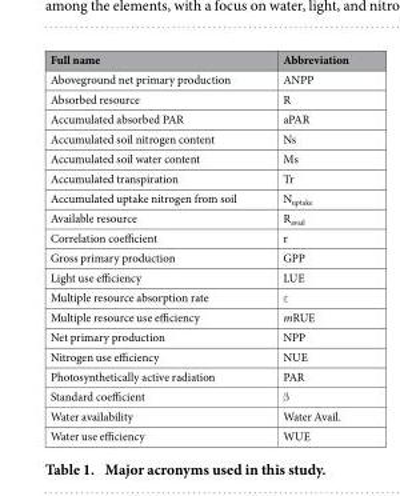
<table><thead><tr><td>Full name</td><td>Abbreviation</td></tr></thead><tbody><tr><td>Aboveground net primary production</td><td>ANPP</td></tr><tr><td>Absorbed resource</td><td>R</td></tr><tr><td>Accumulated absorbed PAR</td><td>aPAR</td></tr><tr><td>Accumulated soil nitrogen content</td><td>Ns</td></tr><tr><td>Accumulated soil water content</td><td>Ms</td></tr><tr><td>Accumulated transpiration</td><td>Tr</td></tr><tr><td>Accumulated uptake nitrogen from soil</td><td>N<sub>uptake</sub></td></tr><tr><td>Available resource</td><td>R<sub>avail</sub></td></tr><tr><td>Correlation coefficient</td><td>r</td></tr><tr><td>Gross primary production</td><td>GPP</td></tr><tr><td>Light use efficiency</td><td>LUE</td></tr><tr><td>Multiple resource absorption rate</td><td>ε</td></tr><tr><td>Multiple resource use efficiency</td><td>mRUE</td></tr><tr><td>Net primary production</td><td>NPP</td></tr><tr><td>Nitrogen use efficiency</td><td>NUE</td></tr><tr><td>Photosynthetically active radiation</td><td>PAR</td></tr><tr><td>Standard coefficient</td><td>β</td></tr><tr><td>Water availability</td><td>Water Avail.</td></tr><tr><td>Water use efficiency</td><td>WUE</td></tr></tbody></table>